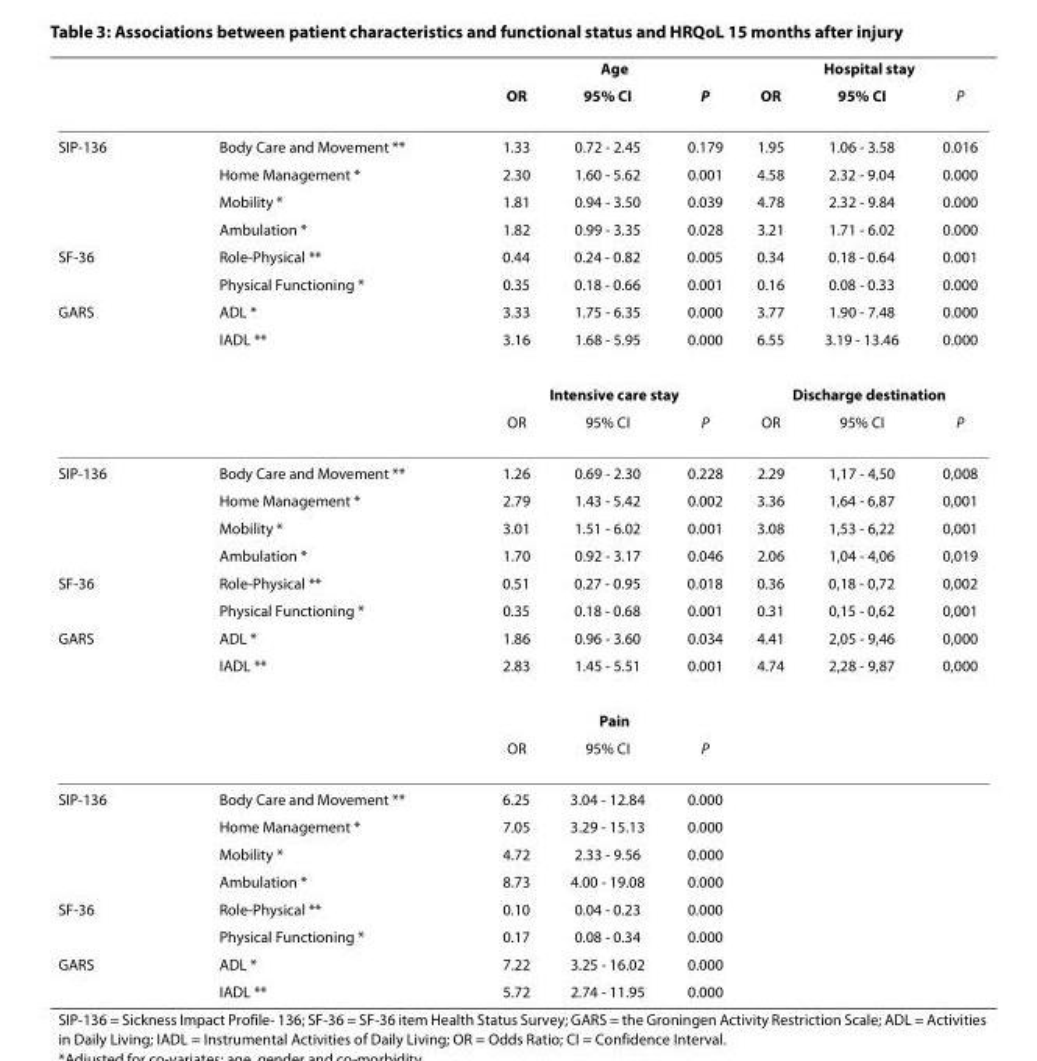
<table><thead><tr><td rowspan="2"></td><td rowspan="2"></td><td colspan="3">Age</td><td colspan="3">Hospital stay</td></tr><tr><td>OR</td><td>95% CI</td><td>P</td><td>OR</td><td>95% CI</td><td>P</td></tr></thead><tbody><tr><td rowspan="4">SIP-136</td><td>Body Care and Movement **</td><td>1.33</td><td>0.72 - 2.45</td><td>0.179</td><td>1.95</td><td>1.06 - 3.58</td><td>0.016</td></tr><tr><td>Home Management *</td><td>2.30</td><td>1.60 - 5.62</td><td>0.001</td><td>4.58</td><td>2.32 - 9.04</td><td>0.000</td></tr><tr><td>Mobility *</td><td>1.81</td><td>0.94 - 3.50</td><td>0.039</td><td>4.78</td><td>2.32 - 9.84</td><td>0.000</td></tr><tr><td>Ambulation *</td><td>1.82</td><td>0.99 - 3.35</td><td>0.028</td><td>3.21</td><td>1.71 - 6.02</td><td>0.000</td></tr><tr><td rowspan="2">SF-36</td><td>Role-Physical **</td><td>0.44</td><td>0.24 - 0.82</td><td>0.005</td><td>0.34</td><td>0.18 - 0.64</td><td>0.001</td></tr><tr><td>Physical Functioning *</td><td>0.35</td><td>0.18 - 0.66</td><td>0.001</td><td>0.16</td><td>0.08 - 0.33</td><td>0.000</td></tr><tr><td rowspan="4">GARS</td><td>ADL *</td><td>3.33</td><td>1.75 - 6.35</td><td>0.000</td><td>3.77</td><td>1.90 - 7.48</td><td>0.000</td></tr><tr><td>IADL **</td><td>3.16</td><td>1.68 - 5.95</td><td>0.000</td><td>6.55</td><td>3.19 - 13.46</td><td>0.000</td></tr><tr><td></td><td colspan="3">Intensive care stay</td><td colspan="3">Discharge destination</td></tr><tr><td></td><td>OR</td><td>95% CI</td><td>P</td><td>OR</td><td>95% CI</td><td>P</td></tr><tr><td rowspan="4">SIP-136</td><td>Body Care and Movement **</td><td>1.26</td><td>0.69 - 2.30</td><td>0.228</td><td>2.29</td><td>1,17 - 4,50</td><td>0,008</td></tr><tr><td>Home Management *</td><td>2.79</td><td>1.43 - 5.42</td><td>0.002</td><td>3.36</td><td>1,64 - 6,87</td><td>0,001</td></tr><tr><td>Mobility *</td><td>3.01</td><td>1.51 - 6.02</td><td>0.001</td><td>3.08</td><td>1,53 - 6,22</td><td>0,001</td></tr><tr><td>Ambulation *</td><td>1.70</td><td>0.92 - 3.17</td><td>0.046</td><td>2.06</td><td>1,04 - 4,06</td><td>0,019</td></tr><tr><td rowspan="2">SF-36</td><td>Role-Physical **</td><td>0.51</td><td>0.27 - 0.95</td><td>0.018</td><td>0.36</td><td>0,18 - 0,72</td><td>0,002</td></tr><tr><td>Physical Functioning *</td><td>0.35</td><td>0.18 - 0.68</td><td>0.001</td><td>0.31</td><td>0,15 - 0,62</td><td>0,001</td></tr><tr><td rowspan="4">GARS</td><td>ADL *</td><td>1.86</td><td>0.96 - 3.60</td><td>0.034</td><td>4.41</td><td>2,05 - 9,46</td><td>0,000</td></tr><tr><td>IADL **</td><td>2.83</td><td>1.45 - 5.51</td><td>0.001</td><td>4.74</td><td>2,28 - 9,87</td><td>0,000</td></tr><tr><td></td><td colspan="3">Pain</td><td></td><td></td><td></td></tr><tr><td></td><td>OR</td><td>95% CI</td><td>P</td><td></td><td></td><td></td></tr><tr><td rowspan="4">SIP-136</td><td>Body Care and Movement **</td><td>6.25</td><td>3.04 - 12.84</td><td>0.000</td><td></td><td></td><td></td></tr><tr><td>Home Management *</td><td>7.05</td><td>3.29 - 15.13</td><td>0.000</td><td></td><td></td><td></td></tr><tr><td>Mobility *</td><td>4.72</td><td>2.33 - 9.56</td><td>0.000</td><td></td><td></td><td></td></tr><tr><td>Ambulation *</td><td>8.73</td><td>4.00 - 19.08</td><td>0.000</td><td></td><td></td><td></td></tr><tr><td rowspan="2">SF-36</td><td>Role-Physical **</td><td>0.10</td><td>0.04 - 0.23</td><td>0.000</td><td></td><td></td><td></td></tr><tr><td>Physical Functioning *</td><td>0.17</td><td>0.08 - 0.34</td><td>0.000</td><td></td><td></td><td></td></tr><tr><td rowspan="2">GARS</td><td>ADL *</td><td>7.22</td><td>3.25 - 16.02</td><td>0.000</td><td></td><td></td><td></td></tr><tr><td>IADL **</td><td>5.72</td><td>2.74 - 11.95</td><td>0.000</td><td></td><td></td><td></td></tr></tbody></table>